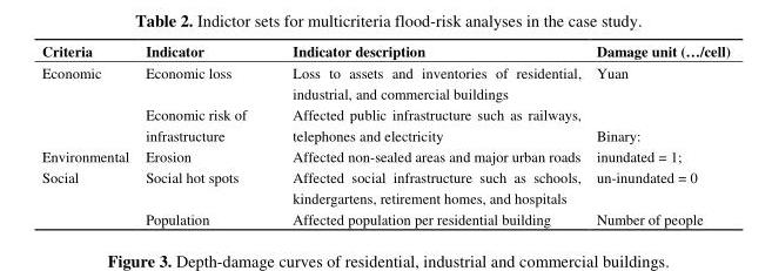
<table><thead><tr><td>Criteria</td><td>Indicator</td><td>Indicator description</td><td>Damage unit (…/cell)</td></tr></thead><tbody><tr><td rowspan="2">Economic</td><td>Economic loss</td><td>Loss to assets and inventories of residential, industrial, and commercial buildings</td><td>Yuan</td></tr><tr><td>Economic risk of infrastructure</td><td>Affected public infrastructure such as railways, telephones and electricity</td><td>Binary:</td></tr><tr><td rowspan="3">Environmental Social</td><td>Erosion</td><td>Affected non-sealed areas and major urban roads</td><td>inundated = 1;</td></tr><tr><td>Social hot spots</td><td>Affected social infrastructure such as schools, kindergartens, retirement homes, and hospitals</td><td>un-inundated = 0</td></tr><tr><td>Population</td><td>Affected population per residential building</td><td>Number of people</td></tr></tbody></table>